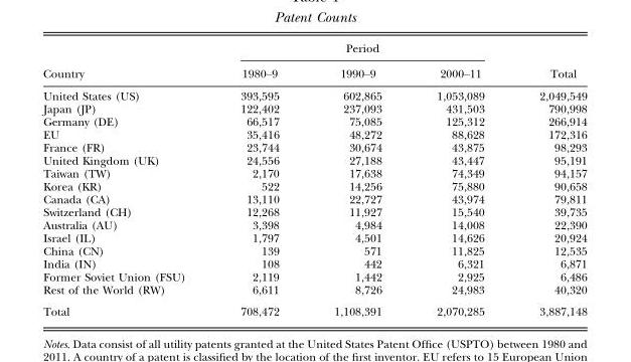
<table><thead><tr><td rowspan="2">Country</td><td colspan="3">Period</td><td rowspan="2">Total</td></tr><tr><td>1980–9</td><td>1990–9</td><td>2000–11</td></tr></thead><tbody><tr><td>United States (US)</td><td>393,595</td><td>602,865</td><td>1,053,089</td><td>2,049,549</td></tr><tr><td>Japan (JP)</td><td>122,402</td><td>237,093</td><td>431,503</td><td>790,998</td></tr><tr><td>Germany (DE)</td><td>66,517</td><td>75,085</td><td>125,312</td><td>266,914</td></tr><tr><td>EU</td><td>35,416</td><td>48,272</td><td>88,628</td><td>172,316</td></tr><tr><td>France (FR)</td><td>23,744</td><td>30,674</td><td>43,875</td><td>98,293</td></tr><tr><td>United Kingdom (UK)</td><td>24,556</td><td>27,188</td><td>43,447</td><td>95,191</td></tr><tr><td>Taiwan (TW)</td><td>2,170</td><td>17,638</td><td>74,349</td><td>94,157</td></tr><tr><td>Korea (KR)</td><td>522</td><td>14,256</td><td>75,880</td><td>90,658</td></tr><tr><td>Canada (CA)</td><td>13,110</td><td>22,727</td><td>43,974</td><td>79,811</td></tr><tr><td>Switzerland (CH)</td><td>12,268</td><td>11,927</td><td>15,540</td><td>39,735</td></tr><tr><td>Australia (AU)</td><td>3,398</td><td>4,984</td><td>14,008</td><td>22,390</td></tr><tr><td>Israel (IL)</td><td>1,797</td><td>4,501</td><td>14,626</td><td>20,924</td></tr><tr><td>China (CN)</td><td>139</td><td>571</td><td>11,825</td><td>12,535</td></tr><tr><td>India (IN)</td><td>108</td><td>442</td><td>6,321</td><td>6,871</td></tr><tr><td>Former Soviet Union (FSU)</td><td>2,119</td><td>1,442</td><td>2,925</td><td>6,486</td></tr><tr><td>Rest of the World (RW)</td><td>6,611</td><td>8,726</td><td>24,983</td><td>40,320</td></tr><tr><td>Total</td><td>708,472</td><td>1,108,391</td><td>2,070,285</td><td>3,887,148</td></tr></tbody></table>